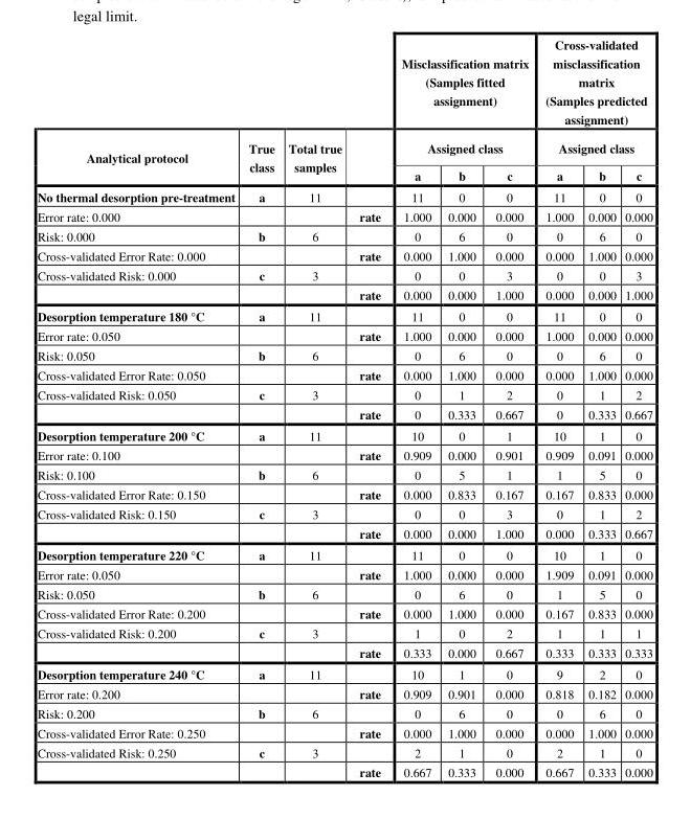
<table><thead><tr><td rowspan="3">Analytical protocol</td><td rowspan="3">True class</td><td rowspan="3">Total true samples</td><td rowspan="3"></td><td rowspan="2" colspan="3">Misclassification matrix (Samples fitted assignment) Assigned class</td><td rowspan="2" colspan="3">Cross-validated misclassification matrix (Samples predicted assignment) Assigned class</td></tr><tr></tr><tr><td>a</td><td>b</td><td>c</td><td>a</td><td>b</td><td>c</td></tr></thead><tbody><tr><td>No thermal desorption pre-treatment</td><td>a</td><td>11</td><td></td><td>11</td><td>0</td><td>0</td><td>11</td><td>0</td><td>0</td></tr><tr><td>Error rate: 0.000</td><td></td><td></td><td>rate</td><td>1.000</td><td>0.000</td><td>0.000</td><td>1.000</td><td>0.000</td><td>0.000</td></tr><tr><td>Risk: 0.000</td><td>b</td><td>6</td><td></td><td>0</td><td>6</td><td>0</td><td>0</td><td>6</td><td>0</td></tr><tr><td>Cross-validated Error Rate: 0.000</td><td></td><td></td><td>rate</td><td>0.000</td><td>1.000</td><td>0.000</td><td>0.000</td><td>1.000</td><td>0.000</td></tr><tr><td rowspan="2">Cross-validated Risk: 0.000</td><td>c</td><td>3</td><td></td><td>0</td><td>0</td><td>3</td><td>0</td><td>0</td><td>3</td></tr><tr><td></td><td></td><td>rate</td><td>0.000</td><td>0.000</td><td>1.000</td><td>0.000</td><td>0.000</td><td>1.000</td></tr><tr><td>Desorption temperature 180 °C</td><td>a</td><td>11</td><td></td><td>11</td><td>0</td><td>0</td><td>11</td><td>0</td><td>0</td></tr><tr><td>Error rate: 0.050</td><td></td><td></td><td>rate</td><td>1.000</td><td>0.000</td><td>0.000</td><td>1.000</td><td>0.000</td><td>0.000</td></tr><tr><td>Risk: 0.050</td><td>b</td><td>6</td><td></td><td>0</td><td>6</td><td>0</td><td>0</td><td>6</td><td>0</td></tr><tr><td>Cross-validated Error Rate: 0.050</td><td></td><td></td><td>rate</td><td>0.000</td><td>1.000</td><td>0.000</td><td>0.000</td><td>1.000</td><td>0.000</td></tr><tr><td rowspan="2">Cross-validated Risk: 0.050</td><td>c</td><td>3</td><td></td><td>0</td><td>1</td><td>2</td><td>0</td><td>1</td><td>2</td></tr><tr><td></td><td></td><td>rate</td><td>0</td><td>0.333</td><td>0.667</td><td>0</td><td>0.333</td><td>0.667</td></tr><tr><td>Desorption temperature 200 °C</td><td>a</td><td>11</td><td></td><td>10</td><td>0</td><td>1</td><td>10</td><td>1</td><td>0</td></tr><tr><td>Error rate: 0.100</td><td></td><td></td><td>rate</td><td>0.909</td><td>0.000</td><td>0.901</td><td>0.909</td><td>0.091</td><td>0.000</td></tr><tr><td>Risk: 0.100</td><td>b</td><td>6</td><td></td><td>0</td><td>5</td><td>1</td><td>1</td><td>5</td><td>0</td></tr><tr><td>Cross-validated Error Rate: 0.150</td><td></td><td></td><td>rate</td><td>0.000</td><td>0.833</td><td>0.167</td><td>0.167</td><td>0.833</td><td>0.000</td></tr><tr><td rowspan="2">Cross-validated Risk: 0.150</td><td>c</td><td>3</td><td></td><td>0</td><td>0</td><td>3</td><td>0</td><td>1</td><td>2</td></tr><tr><td></td><td></td><td>rate</td><td>0.000</td><td>0.000</td><td>1.000</td><td>0.000</td><td>0.333</td><td>0.667</td></tr><tr><td>Desorption temperature 220 °C</td><td>a</td><td>11</td><td></td><td>11</td><td>0</td><td>0</td><td>10</td><td>1</td><td>0</td></tr><tr><td>Error rate: 0.050</td><td></td><td></td><td>rate</td><td>1.000</td><td>0.000</td><td>0.000</td><td>1.909</td><td>0.091</td><td>0.000</td></tr><tr><td>Risk: 0.050</td><td>b</td><td>6</td><td></td><td>0</td><td>6</td><td>0</td><td>1</td><td>5</td><td>0</td></tr><tr><td>Cross-validated Error Rate: 0.200</td><td></td><td></td><td>rate</td><td>0.000</td><td>1.000</td><td>0.000</td><td>0.167</td><td>0.833</td><td>0.000</td></tr><tr><td rowspan="2">Cross-validated Risk: 0.200</td><td>c</td><td>3</td><td></td><td>1</td><td>0</td><td>2</td><td>1</td><td>1</td><td>1</td></tr><tr><td></td><td></td><td>rate</td><td>0.333</td><td>0.000</td><td>0.667</td><td>0.333</td><td>0.333</td><td>0.333</td></tr><tr><td>Desorption temperature 240 °C</td><td>a</td><td>11</td><td></td><td>10</td><td>1</td><td>0</td><td>9</td><td>2</td><td>0</td></tr><tr><td>Error rate: 0.200</td><td></td><td></td><td>rate</td><td>0.909</td><td>0.901</td><td>0.000</td><td>0.818</td><td>0.182</td><td>0.000</td></tr><tr><td>Risk: 0.200</td><td>b</td><td>6</td><td></td><td>0</td><td>6</td><td>0</td><td>0</td><td>6</td><td>0</td></tr><tr><td>Cross-validated Error Rate: 0.250</td><td></td><td></td><td>rate</td><td>0.000</td><td>1.000</td><td>0.000</td><td>0.000</td><td>1.000</td><td>0.000</td></tr><tr><td rowspan="2">Cross-validated Risk: 0.250</td><td>c</td><td>3</td><td></td><td>2</td><td>1</td><td>0</td><td>2</td><td>1</td><td>0</td></tr><tr><td></td><td></td><td>rate</td><td>0.667</td><td>0.333</td><td>0.000</td><td>0.667</td><td>0.333</td><td>0.000</td></tr></tbody></table>